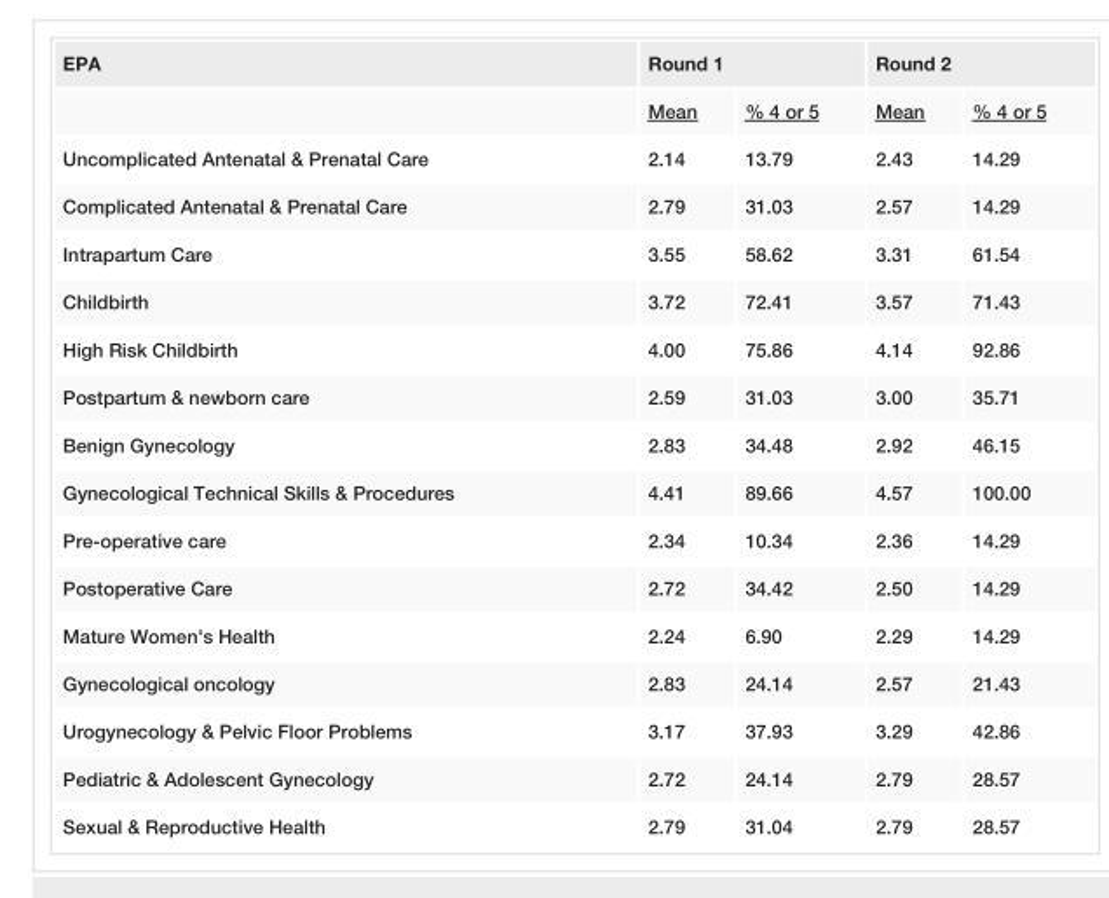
<table><tbody><tr><td rowspan="2">EPA</td><td colspan="2">Round 1</td><td colspan="2">Round 2</td></tr><tr><td>Mean</td><td>% 4 or 5</td><td>Mean</td><td>% 4 or 5</td></tr><tr><td>Uncomplicated Antenatal &amp; Prenatal Care</td><td>2.14</td><td>13.79</td><td>2.43</td><td>14.29</td></tr><tr><td>Complicated Antenatal &amp; Prenatal Care</td><td>2.79</td><td>31.03</td><td>2.57</td><td>14.29</td></tr><tr><td>Intrapartum Care</td><td>3.55</td><td>58.62</td><td>3.31</td><td>61.54</td></tr><tr><td>Childbirth</td><td>3.72</td><td>72.41</td><td>3.57</td><td>71.43</td></tr><tr><td>High Risk Childbirth</td><td>4.00</td><td>75.86</td><td>4.14</td><td>92.86</td></tr><tr><td>Postpartum &amp; newborn care</td><td>2.59</td><td>31.03</td><td>3.00</td><td>35.71</td></tr><tr><td>Benign Gynecology</td><td>2.83</td><td>34.48</td><td>2.92</td><td>46.15</td></tr><tr><td>Gynecological Technical Skills &amp; Procedures</td><td>4.41</td><td>89.66</td><td>4.57</td><td>100.00</td></tr><tr><td>Pre-operative care</td><td>2.34</td><td>10.34</td><td>2.36</td><td>14.29</td></tr><tr><td>Postoperative Care</td><td>2.72</td><td>34.42</td><td>2.50</td><td>14.29</td></tr><tr><td>Mature Women&#x27;s Health</td><td>2.24</td><td>6.90</td><td>2.29</td><td>14.29</td></tr><tr><td>Gynecological oncology</td><td>2.83</td><td>24.14</td><td>2.57</td><td>21.43</td></tr><tr><td>Urogynecology &amp; Pelvic Floor Problems</td><td>3.17</td><td>37.93</td><td>3.29</td><td>42.86</td></tr><tr><td>Pediatric &amp; Adolescent Gynecology</td><td>2.72</td><td>24.14</td><td>2.79</td><td>28.57</td></tr><tr><td>Sexual &amp; Reproductive Health</td><td>2.79</td><td>31.04</td><td>2.79</td><td>28.57</td></tr></tbody></table>